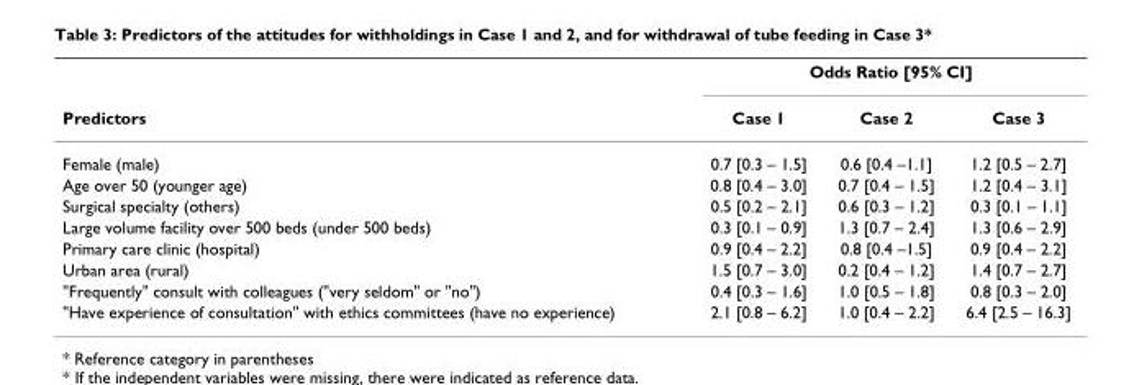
<table><thead><tr><td rowspan="2">Predictors</td><td colspan="3">Odds Ratio [95% CI]</td></tr><tr><td>Case 1</td><td>Case 2</td><td>Case 3</td></tr></thead><tbody><tr><td>Female (male)</td><td>0.7 [0.3 – 1.5]</td><td>0.6 [0.4 –1.1]</td><td>1.2 [0.5 – 2.7]</td></tr><tr><td>Age over 50 (younger age)</td><td>0.8 [0.4 – 3.0]</td><td>0.7 [0.4 – 1.5]</td><td>1.2 [0.4 – 3.1]</td></tr><tr><td>Surgical specialty (others)</td><td>0.5 [0.2 – 2.1]</td><td>0.6 [0.3 – 1.2]</td><td>0.3 [0.1 – 1.1]</td></tr><tr><td>Large volume facility over 500 beds (under 500 beds)</td><td>0.3 [0.1 – 0.9]</td><td>1.3 [0.7 – 2.4]</td><td>1.3 [0.6 – 2.9]</td></tr><tr><td>Primary care clinic (hospital)</td><td>0.9 [0.4 – 2.2]</td><td>0.8 [0.4 –1.5]</td><td>0.9 [0.4 – 2.2]</td></tr><tr><td>Urban area (rural)</td><td>1.5 [0.7 – 3.0]</td><td>0.2 [0.4 – 1.2]</td><td>1.4 [0.7 – 2.7]</td></tr><tr><td>&quot;Frequently&quot; consult with colleagues (&quot;very seldom&quot; or &quot;no&quot;)</td><td>0.4 [0.3 – 1.6]</td><td>1.0 [0.5 – 1.8]</td><td>0.8 [0.3 – 2.0]</td></tr><tr><td>&quot;Have experience of consultation&quot; with ethics committees (have no experience)</td><td>2.1 [0.8 – 6.2]</td><td>1.0 [0.4 – 2.2]</td><td>6.4 [2.5 – 16.3]</td></tr></tbody></table>